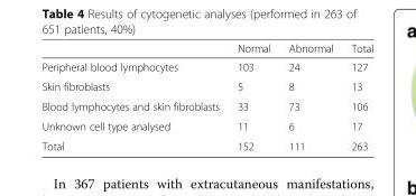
<table><thead><tr><td></td><td>Normal</td><td>Abnormal</td><td>Total</td></tr></thead><tbody><tr><td>Peripheral blood lymphocytes</td><td>103</td><td>24</td><td>127</td></tr><tr><td>Skin fibroblasts</td><td>5</td><td>8</td><td>13</td></tr><tr><td>Blood lymphocytes and skin fibroblasts</td><td>33</td><td>73</td><td>106</td></tr><tr><td>Unknown cell type analysed</td><td>11</td><td>6</td><td>17</td></tr><tr><td>Total</td><td>152</td><td>111</td><td>263</td></tr></tbody></table>